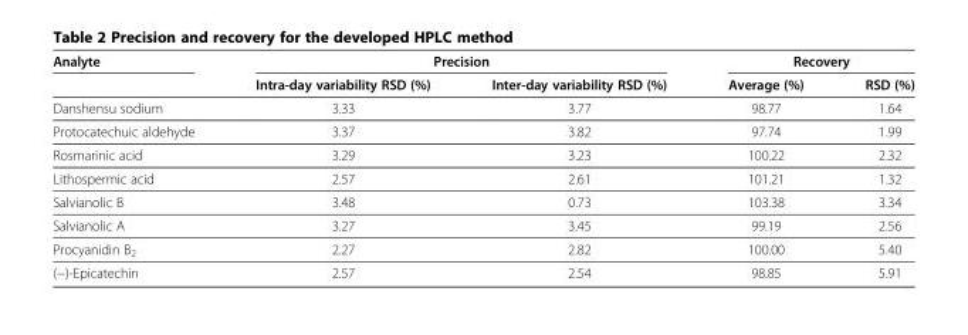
<table><thead><tr><td rowspan="2">Analyte</td><td colspan="2">Precision</td><td colspan="2">Recovery</td></tr><tr><td>Intra-day variability RSD (%)</td><td>Inter-day variability RSD (%)</td><td>Average (%)</td><td>RSD (%)</td></tr></thead><tbody><tr><td>Danshensu sodium</td><td>3.33</td><td>3.77</td><td>98.77</td><td>1.64</td></tr><tr><td>Protocatechuic aldehyde</td><td>3.37</td><td>3.82</td><td>97.74</td><td>1.99</td></tr><tr><td>Rosmarinic acid</td><td>3.29</td><td>3.23</td><td>100.22</td><td>2.32</td></tr><tr><td>Lithospermic acid</td><td>2.57</td><td>2.61</td><td>101.21</td><td>1.32</td></tr><tr><td>Salvianolic B</td><td>3.48</td><td>0.73</td><td>103.38</td><td>3.34</td></tr><tr><td>Salvianolic A</td><td>3.27</td><td>3.45</td><td>99.19</td><td>2.56</td></tr><tr><td>Procyanidin B<sub>2</sub></td><td>2.27</td><td>2.82</td><td>100.00</td><td>5.40</td></tr><tr><td>(−)-Epicatechin</td><td>2.57</td><td>2.54</td><td>98.85</td><td>5.91</td></tr></tbody></table>